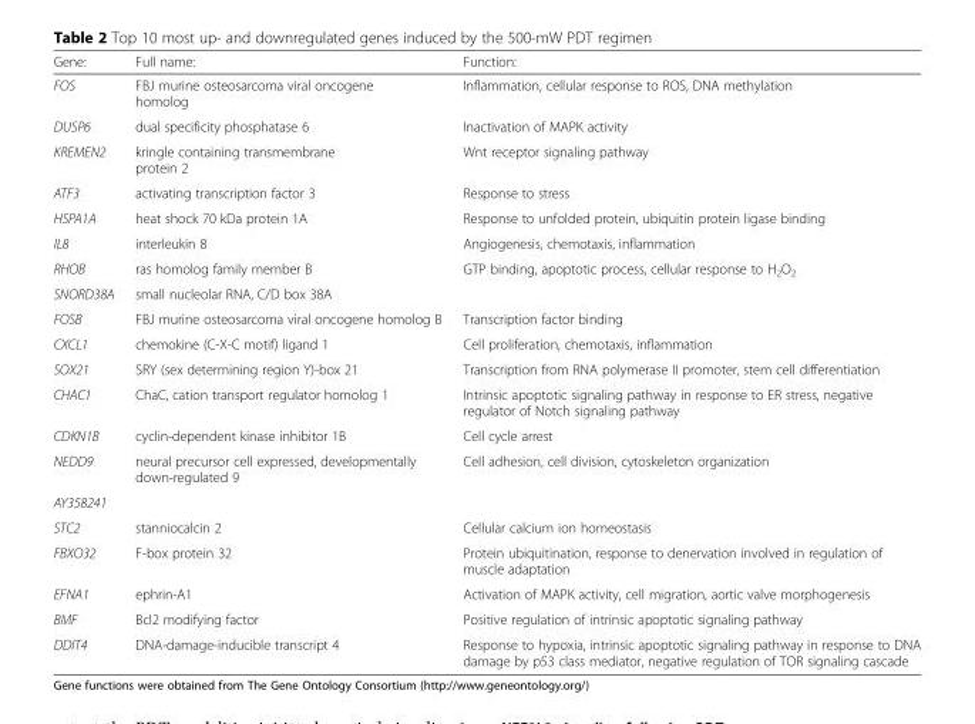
<table><thead><tr><td>Gene:</td><td>Full name:</td><td>Function:</td></tr></thead><tbody><tr><td>FOS</td><td>FBJ murine osteosarcoma viral oncogene homolog</td><td>Inflammation, cellular response to ROS, DNA methylation</td></tr><tr><td>DUSP6</td><td>dual specificity phosphatase 6</td><td>Inactivation of MAPK activity</td></tr><tr><td>KREMEN2</td><td>kringle containing transmembrane protein 2</td><td>Wnt receptor signaling pathway</td></tr><tr><td>ATF3</td><td>activating transcription factor 3</td><td>Response to stress</td></tr><tr><td>HSPA1A</td><td>heat shock 70 kDa protein 1A</td><td>Response to unfolded protein, ubiquitin protein ligase binding</td></tr><tr><td>IL8</td><td>interleukin 8</td><td>Angiogenesis, chemotaxis, inflammation</td></tr><tr><td>RHOB</td><td>ras homolog family member B</td><td>GTP binding, apoptotic process, cellular response to H<sub>2</sub>O<sub>2</sub></td></tr><tr><td>SNORD38A</td><td>small nucleolar RNA, C/D box 38A</td><td></td></tr><tr><td>FOSB</td><td>FBJ murine osteosarcoma viral oncogene homolog B</td><td>Transcription factor binding</td></tr><tr><td>CXCL1</td><td>chemokine (C-X-C motif) ligand 1</td><td>Cell proliferation, chemotaxis, inflammation</td></tr><tr><td>SOX21</td><td>SRY (sex determining region Y)-box 21</td><td>Transcription from RNA polymerase II promoter, stem cell differentiation</td></tr><tr><td>CHAC1</td><td>ChaC, cation transport regulator homolog 1</td><td>Intrinsic apoptotic signaling pathway in response to ER stress, negative regulator of Notch signaling pathway</td></tr><tr><td>CDKN1B</td><td>cyclin-dependent kinase inhibitor 1B</td><td>Cell cycle arrest</td></tr><tr><td>NEDD9</td><td>neural precursor cell expressed, developmentally down-regulated 9</td><td>Cell adhesion, cell division, cytoskeleton organization</td></tr><tr><td colspan="3">AY358241</td></tr><tr><td>STC2</td><td>stanniocalcin 2</td><td>Cellular calcium ion homeostasis</td></tr><tr><td>FBXO32</td><td>F-box protein 32</td><td>Protein ubiquitination, response to denervation involved in regulation of muscle adaptation</td></tr><tr><td>EFNA1</td><td>ephrin-A1</td><td>Activation of MAPK activity, cell migration, aortic valve morphogenesis</td></tr><tr><td>BMF</td><td>Bcl2 modifying factor</td><td>Positive regulation of intrinsic apoptotic signaling pathway</td></tr><tr><td>DDIT4</td><td>DNA-damage-inducible transcript 4</td><td>Response to hypoxia, intrinsic apoptotic signaling pathway in response to DNA damage by p53 class mediator, negative regulation of TOR signaling cascade</td></tr></tbody></table>